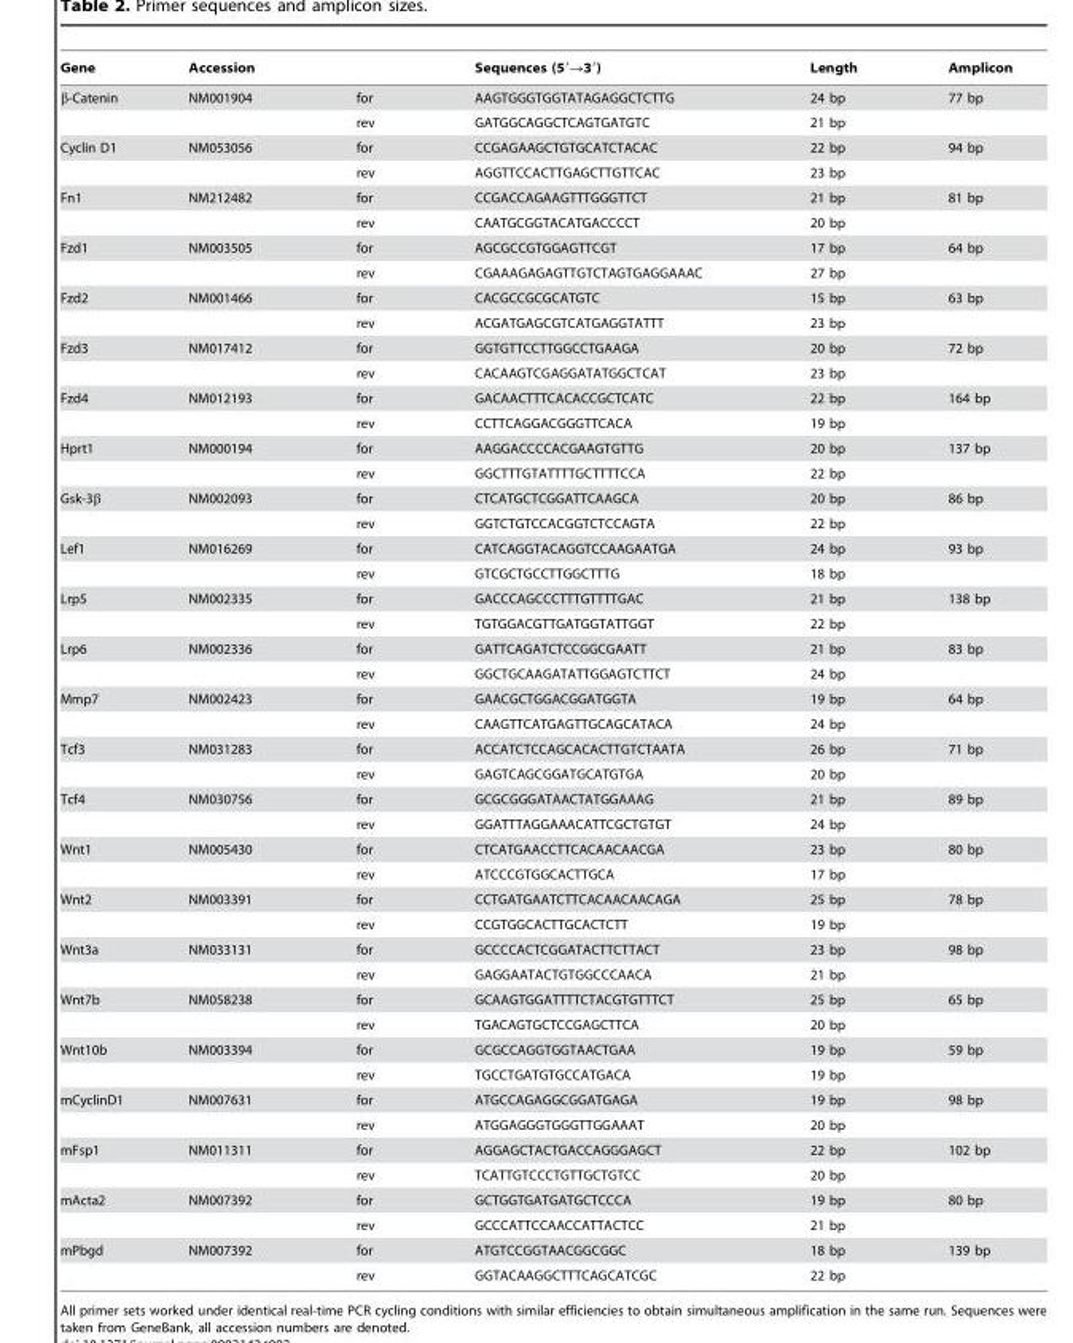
<table><thead><tr><td rowspan="2">Gene β-Catenin</td><td colspan="2">Accession</td><td rowspan="2">Sequences (5′→3′) AAGTGGGTGGTATAGAGGCTCTTG</td><td rowspan="2">Length 24 bp</td><td rowspan="2">Amplicon 77 bp</td></tr><tr><td>NM001904</td><td>for</td></tr></thead><tbody><tr><td></td><td></td><td>rev</td><td>GATGGCAGGCTCAGTGATGTC</td><td>21 bp</td><td></td></tr><tr><td rowspan="2">Cyclin D1</td><td>NM053056</td><td>for</td><td>CCGAGAAGCTGTGCATCTACAC</td><td>22 bp</td><td>94 bp</td></tr><tr><td></td><td>rev</td><td>AGGTTCCACTTGAGCTTGTTCAC</td><td>23 bp</td><td></td></tr><tr><td rowspan="2">Fn1</td><td>NM212482</td><td>for</td><td>CCGACCAGAAGTTTGGGTTCT</td><td>21 bp</td><td>81 bp</td></tr><tr><td></td><td>rev</td><td>CAATGCGGTACATGACCCCT</td><td>20 bp</td><td></td></tr><tr><td rowspan="2">Fzd1</td><td>NM003505</td><td>for</td><td>AGCGCCGTGGAGTTCGT</td><td>17 bp</td><td>64 bp</td></tr><tr><td></td><td>rev</td><td>CGAAAGAGAGTTGTCTAGTGAGGAAAC</td><td>27 bp</td><td></td></tr><tr><td rowspan="2">Fzd2</td><td>NM001466</td><td>for</td><td>CACGCCGCGCATGTC</td><td>15 bp</td><td>63 bp</td></tr><tr><td></td><td>rev</td><td>ACGATGAGCGTCATGAGGTATTT</td><td>23 bp</td><td></td></tr><tr><td rowspan="2">Fzd3</td><td>NM017412</td><td>for</td><td>GGTGTTCCTTGGCCTGAAGA</td><td>20 bp</td><td>72 bp</td></tr><tr><td></td><td>rev</td><td>CACAAGTCGAGGATATGGCTCAT</td><td>23 bp</td><td></td></tr><tr><td rowspan="2">Fzd4</td><td>NM012193</td><td>for</td><td>GACAACTTTCACACCGCTCATC</td><td>22 bp</td><td>164 bp</td></tr><tr><td></td><td>rev</td><td>CCTTCAGGACGGGTTCACA</td><td>19 bp</td><td></td></tr><tr><td rowspan="2">Hprt1</td><td>NM000194</td><td>for</td><td>AAGGACCCCACGAAGTGTTG</td><td>20 bp</td><td>137 bp</td></tr><tr><td></td><td>rev</td><td>GGCTTTGTATTTTGCTTTTCCA</td><td>22 bp</td><td></td></tr><tr><td rowspan="2">Gsk-3β</td><td>NM002093</td><td>for</td><td>CTCATGCTCGGATTCAAGCA</td><td>20 bp</td><td>86 bp</td></tr><tr><td></td><td>rev</td><td>GGTCTGTCCACGGTCTCCAGTA</td><td>22 bp</td><td></td></tr><tr><td rowspan="2">Lef1</td><td>NM016269</td><td>for</td><td>CATCAGGTACAGGTCCAAGAATGA</td><td>24 bp</td><td>93 bp</td></tr><tr><td></td><td>rev</td><td>GTCGCTGCCTTGGCTTTG</td><td>18 bp</td><td></td></tr><tr><td rowspan="2">Lrp5</td><td>NM002335</td><td>for</td><td>GACCCAGCCCTTTGTTTTGAC</td><td>21 bp</td><td>138 bp</td></tr><tr><td></td><td>rev</td><td>TGTGGACGTTGATGGTATTGGT</td><td>22 bp</td><td></td></tr><tr><td rowspan="2">Lrp6</td><td>NM002336</td><td>for</td><td>GATTCAGATCTCCGGCGAATT</td><td>21 bp</td><td>83 bp</td></tr><tr><td></td><td>rev</td><td>GGCTGCAAGATATTGGAGTCTTCT</td><td>24 bp</td><td></td></tr><tr><td rowspan="2">Mmp7</td><td>NM002423</td><td>for</td><td>GAACGCTGGACGGATGGTA</td><td>19 bp</td><td>64 bp</td></tr><tr><td></td><td>rev</td><td>CAAGTTCATGAGTTGCAGCATACA</td><td>24 bp</td><td></td></tr><tr><td rowspan="2">Tcf3</td><td>NM031283</td><td>for</td><td>ACCATCTCCAGCACACTTGTCTAATA</td><td>26 bp</td><td>71 bp</td></tr><tr><td></td><td>rev</td><td>GAGTCAGCGGATGCATGTGA</td><td>20 bp</td><td></td></tr><tr><td rowspan="2">Tcf4</td><td>NM030756</td><td>for</td><td>GCGCGGGATAACTATGGAAAG</td><td>21 bp</td><td>89 bp</td></tr><tr><td></td><td>rev</td><td>GGATTTAGGAAACATTCGCTGTGT</td><td>24 bp</td><td></td></tr><tr><td rowspan="2">Wnt1</td><td>NM005430</td><td>for</td><td>CTCATGAACCTTCACAACAACGA</td><td>23 bp</td><td>80 bp</td></tr><tr><td></td><td>rev</td><td>ATCCCGTGGCACTTGCA</td><td>17 bp</td><td></td></tr><tr><td rowspan="2">Wnt2</td><td>NM003391</td><td>for</td><td>CCTGATGAATCTTCACAACAACAGA</td><td>25 bp</td><td>78 bp</td></tr><tr><td></td><td>rev</td><td>CCGTGGCACTTGCACTCTT</td><td>19 bp</td><td></td></tr><tr><td rowspan="2">Wnt3a</td><td>NM033131</td><td>for</td><td>GCCCCACTCGGATACTTCTTACT</td><td>23 bp</td><td>98 bp</td></tr><tr><td></td><td>rev</td><td>GAGGAATACTGTGGCCCAACA</td><td>21 bp</td><td></td></tr><tr><td rowspan="2">Wnt7b</td><td>NM058238</td><td>for</td><td>GCAAGTGGATTTTCTACGTGTTTCT</td><td>25 bp</td><td>65 bp</td></tr><tr><td></td><td>rev</td><td>TGACAGTGCTCCGAGCTTCA</td><td>20 bp</td><td></td></tr><tr><td rowspan="2">Wnt10b</td><td>NM003394</td><td>for</td><td>GCGCCAGGTGGTAACTGAA</td><td>19 bp</td><td>59 bp</td></tr><tr><td></td><td>rev</td><td>TGCCTGATGTGCCATGACA</td><td>19 bp</td><td></td></tr><tr><td rowspan="2">mCyclinD1</td><td>NM007631</td><td>for</td><td>ATGCCAGAGGCGGATGAGA</td><td>19 bp</td><td>98 bp</td></tr><tr><td></td><td>rev</td><td>ATGGAGGGTGGGTTGGAAAT</td><td>20 bp</td><td></td></tr><tr><td rowspan="2">mFsp1</td><td>NM011311</td><td>for</td><td>AGGAGCTACTGACCAGGGAGCT</td><td>22 bp</td><td>102 bp</td></tr><tr><td></td><td>rev</td><td>TCATTGTCCCTGTTGCTGTCC</td><td>20 bp</td><td></td></tr><tr><td rowspan="2">mActa2</td><td>NM007392</td><td>for</td><td>GCTGGTGATGATGCTCCCA</td><td>19 bp</td><td>80 bp</td></tr><tr><td></td><td>rev</td><td>GCCCATTCCAACCATTACTCC</td><td>21 bp</td><td></td></tr><tr><td rowspan="2">mPbgd</td><td>NM007392</td><td>for</td><td>ATGTCCGGTAACGGCGGC</td><td>18 bp</td><td>139 bp</td></tr><tr><td></td><td>rev</td><td>GGTACAAGGCTTTCAGCATCGC</td><td>22 bp</td><td></td></tr></tbody></table>